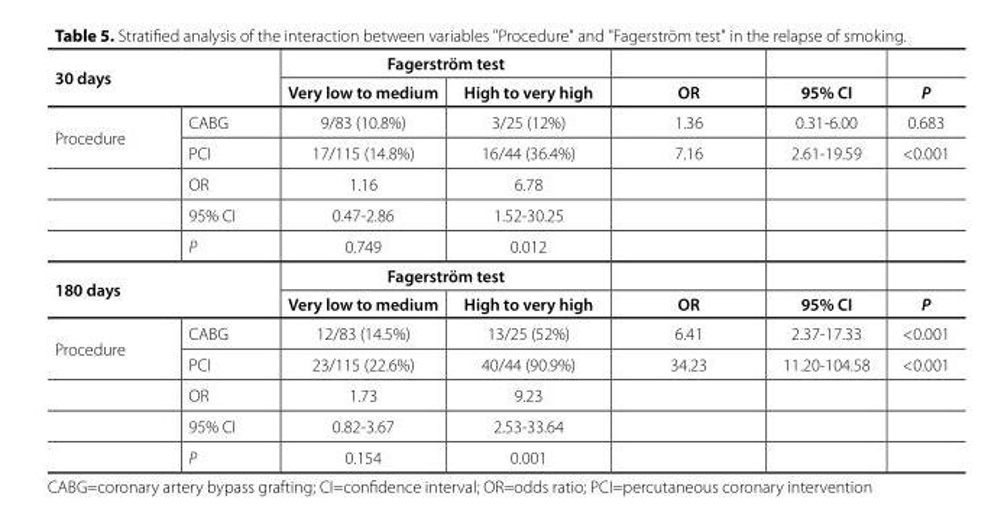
<table><tbody><tr><td rowspan="2" colspan="2">30 days</td><td colspan="2">Fagerström test</td><td></td><td></td><td></td></tr><tr><td>Very low to medium</td><td>High to very high</td><td>OR</td><td>95% CI</td><td>P</td></tr><tr><td rowspan="5">Procedure</td><td>CABG</td><td>9/83 (10.8%)</td><td>3/25 (12%)</td><td>1.36</td><td>0.31-6.00</td><td>0.683</td></tr><tr><td>PCI</td><td>17/115 (14.8%)</td><td>16/44 (36.4%)</td><td>7.16</td><td>2.61-19.59</td><td>&lt;0.001</td></tr><tr><td>OR</td><td>1.16</td><td>6.78</td><td></td><td></td><td></td></tr><tr><td>95% CI</td><td>0.47-2.86</td><td>1.52-30.25</td><td></td><td></td><td></td></tr><tr><td>P</td><td>0.749</td><td>0.012</td><td></td><td></td><td></td></tr><tr><td rowspan="2" colspan="2">180 days</td><td colspan="2">Fagerström test</td><td></td><td></td><td></td></tr><tr><td>Very low to medium</td><td>High to very high</td><td>OR</td><td>95% CI</td><td>P</td></tr><tr><td rowspan="5">Procedure</td><td>CABG</td><td>12/83 (14.5%)</td><td>13/25 (52%)</td><td>6.41</td><td>2.37-17.33</td><td>&lt;0.001</td></tr><tr><td>PCI</td><td>23/115 (22.6%)</td><td>40/44 (90.9%)</td><td>34.23</td><td>11.20-104.58</td><td>&lt;0.001</td></tr><tr><td>OR</td><td>1.73</td><td>9.23</td><td></td><td></td><td></td></tr><tr><td>95% CI</td><td>0.82-3.67</td><td>2.53-33.64</td><td></td><td></td><td></td></tr><tr><td>P</td><td>0.154</td><td>0.001</td><td></td><td></td><td></td></tr></tbody></table>